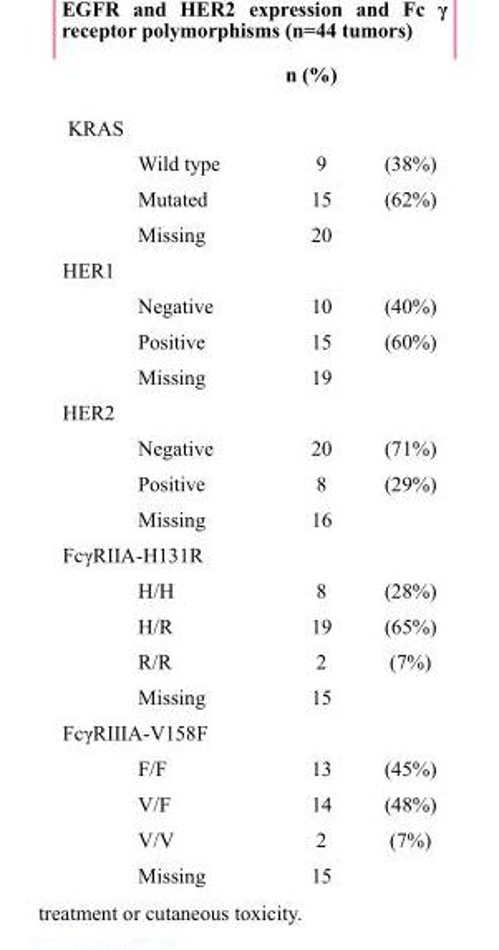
<table><thead><tr><td rowspan="2">KRAS</td><td colspan="2">n (%)</td></tr><tr><td></td><td></td></tr></thead><tbody><tr><td>Wild type</td><td>9</td><td>(38%)</td></tr><tr><td>Mutated</td><td>15</td><td>(62%)</td></tr><tr><td>Missing</td><td>20</td><td></td></tr><tr><td colspan="3">HER1</td></tr><tr><td>Negative</td><td>10</td><td>(40%)</td></tr><tr><td>Positive</td><td>15</td><td>(60%)</td></tr><tr><td>Missing</td><td>19</td><td></td></tr><tr><td colspan="3">HER2</td></tr><tr><td>Negative</td><td>20</td><td>(71%)</td></tr><tr><td>Positive</td><td>8</td><td>(29%)</td></tr><tr><td>Missing</td><td>16</td><td></td></tr><tr><td colspan="3">FcγRIIA-H131R</td></tr><tr><td>H/H</td><td>8</td><td>(28%)</td></tr><tr><td>H/R</td><td>19</td><td>(65%)</td></tr><tr><td>R/R</td><td>2</td><td>(7%)</td></tr><tr><td>Missing</td><td>15</td><td></td></tr><tr><td colspan="3">FcγRIIIA-V158F</td></tr><tr><td>F/F</td><td>13</td><td>(45%)</td></tr><tr><td>V/F</td><td>14</td><td>(48%)</td></tr><tr><td>V/V</td><td>2</td><td>(7%)</td></tr><tr><td>Missing</td><td>15</td><td></td></tr></tbody></table>